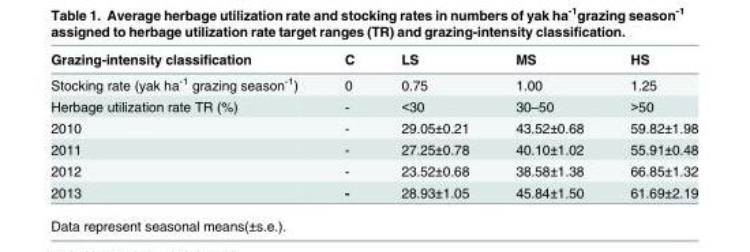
<table><thead><tr><td>Grazing-intensity classification</td><td>C</td><td>LS</td><td>MS</td><td>HS</td></tr></thead><tbody><tr><td>Stocking rate (yak ha<sup>-1</sup> grazing season<sup>-1</sup>)</td><td>0</td><td>0.75</td><td>1.00</td><td>1.25</td></tr><tr><td>Herbage utilization rate TR (%)</td><td>-</td><td>&lt;30</td><td>30–50</td><td>&gt;50</td></tr><tr><td>2010</td><td>-</td><td>29.05±0.21</td><td>43.52±0.68</td><td>59.82±1.98</td></tr><tr><td>2011</td><td>-</td><td>27.25±0.78</td><td>40.10±1.02</td><td>55.91±0.48</td></tr><tr><td>2012</td><td>-</td><td>23.52±0.68</td><td>38.58±1.38</td><td>66.85±1.32</td></tr><tr><td>2013</td><td>-</td><td>28.93±1.05</td><td>45.84±1.50</td><td>61.69±2.19</td></tr></tbody></table>